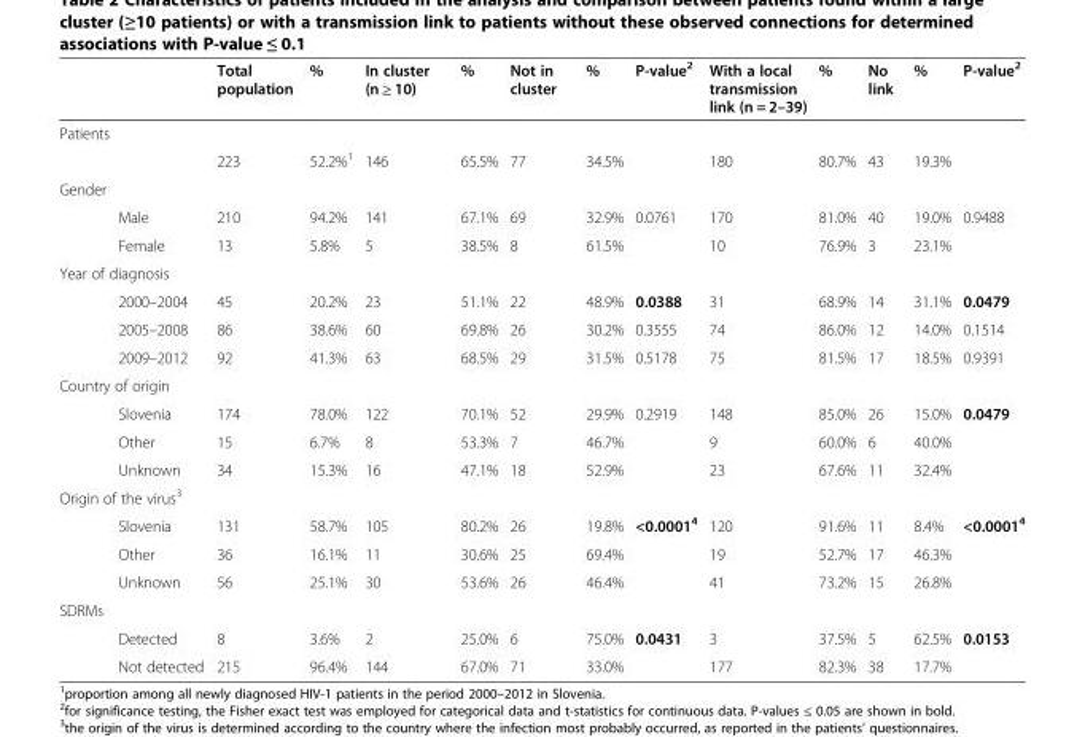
<table><thead><tr><td></td><td></td><td>Total population</td><td>%</td><td>In cluster (n ≥ 10)</td><td>%</td><td>Not in cluster</td><td>%</td><td>P-value<sup>2</sup></td><td>With a local transmission link (n = 2–39)</td><td>%</td><td>No link</td><td>%</td><td>P-value<sup>2</sup></td></tr></thead><tbody><tr><td colspan="14">Patients</td></tr><tr><td></td><td></td><td>223</td><td>52.2%<sup>1</sup></td><td>146</td><td>65.5%</td><td>77</td><td>34.5%</td><td></td><td>180</td><td>80.7%</td><td>43</td><td>19.3%</td><td></td></tr><tr><td colspan="14">Gender</td></tr><tr><td></td><td>Male</td><td>210</td><td>94.2%</td><td>141</td><td>67.1%</td><td>69</td><td>32.9%</td><td>0.0761</td><td>170</td><td>81.0%</td><td>40</td><td>19.0%</td><td>0.9488</td></tr><tr><td></td><td>Female</td><td>13</td><td>5.8%</td><td>5</td><td>38.5%</td><td>8</td><td>61.5%</td><td></td><td>10</td><td>76.9%</td><td>3</td><td>23.1%</td><td></td></tr><tr><td colspan="14">Year of diagnosis</td></tr><tr><td></td><td>2000–2004</td><td>45</td><td>20.2%</td><td>23</td><td>51.1%</td><td>22</td><td>48.9%</td><td>0.0388</td><td>31</td><td>68.9%</td><td>14</td><td>31.1%</td><td>0.0479</td></tr><tr><td></td><td>2005–2008</td><td>86</td><td>38.6%</td><td>60</td><td>69.8%</td><td>26</td><td>30.2%</td><td>0.3555</td><td>74</td><td>86.0%</td><td>12</td><td>14.0%</td><td>0.1514</td></tr><tr><td></td><td>2009–2012</td><td>92</td><td>41.3%</td><td>63</td><td>68.5%</td><td>29</td><td>31.5%</td><td>0.5178</td><td>75</td><td>81.5%</td><td>17</td><td>18.5%</td><td>0.9391</td></tr><tr><td colspan="14">Country of origin</td></tr><tr><td></td><td>Slovenia</td><td>174</td><td>78.0%</td><td>122</td><td>70.1%</td><td>52</td><td>29.9%</td><td>0.2919</td><td>148</td><td>85.0%</td><td>26</td><td>15.0%</td><td>0.0479</td></tr><tr><td></td><td>Other</td><td>15</td><td>6.7%</td><td>8</td><td>53.3%</td><td>7</td><td>46.7%</td><td></td><td>9</td><td>60.0%</td><td>6</td><td>40.0%</td><td></td></tr><tr><td></td><td>Unknown</td><td>34</td><td>15.3%</td><td>16</td><td>47.1%</td><td>18</td><td>52.9%</td><td></td><td>23</td><td>67.6%</td><td>11</td><td>32.4%</td><td></td></tr><tr><td colspan="14">Origin of the virus<sup>3</sup></td></tr><tr><td></td><td>Slovenia</td><td>131</td><td>58.7%</td><td>105</td><td>80.2%</td><td>26</td><td>19.8%</td><td>&lt;0.0001<sup>4</sup></td><td>120</td><td>91.6%</td><td>11</td><td>8.4%</td><td>&lt;0.0001<sup>4</sup></td></tr><tr><td></td><td>Other</td><td>36</td><td>16.1%</td><td>11</td><td>30.6%</td><td>25</td><td>69.4%</td><td></td><td>19</td><td>52.7%</td><td>17</td><td>46.3%</td><td></td></tr><tr><td></td><td>Unknown</td><td>56</td><td>25.1%</td><td>30</td><td>53.6%</td><td>26</td><td>46.4%</td><td></td><td>41</td><td>73.2%</td><td>15</td><td>26.8%</td><td></td></tr><tr><td colspan="14">SDRMs</td></tr><tr><td></td><td>Detected</td><td>8</td><td>3.6%</td><td>2</td><td>25.0%</td><td>6</td><td>75.0%</td><td>0.0431</td><td>3</td><td>37.5%</td><td>5</td><td>62.5%</td><td>0.0153</td></tr><tr><td></td><td>Not detected</td><td>215</td><td>96.4%</td><td>144</td><td>67.0%</td><td>71</td><td>33.0%</td><td></td><td>177</td><td>82.3%</td><td>38</td><td>17.7%</td><td></td></tr></tbody></table>